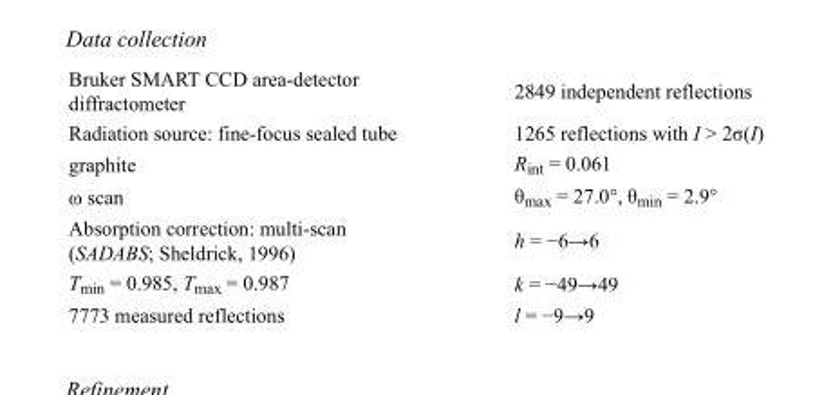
<table><tbody><tr><td>Bruker SMART CCD area-detector diffractometer</td><td>2849 independent reflections</td></tr><tr><td>Radiation source: fine-focus sealed tube</td><td>1265 reflections with I &gt; 2σ(I)</td></tr><tr><td>graphite</td><td>R<sub>int</sub> = 0.061</td></tr><tr><td>ω scan</td><td>θ<sub>max</sub> = 27.0°, θ<sub>min</sub> = 2.9°</td></tr><tr><td>Absorption correction: multi-scan (SADABS; Sheldrick, 1996)</td><td>h = −6→6</td></tr><tr><td>T<sub>min</sub> = 0.985, T<sub>max</sub> = 0.987</td><td>k = −49→49</td></tr><tr><td>7773 measured reflections</td><td>l = −9→9</td></tr></tbody></table>